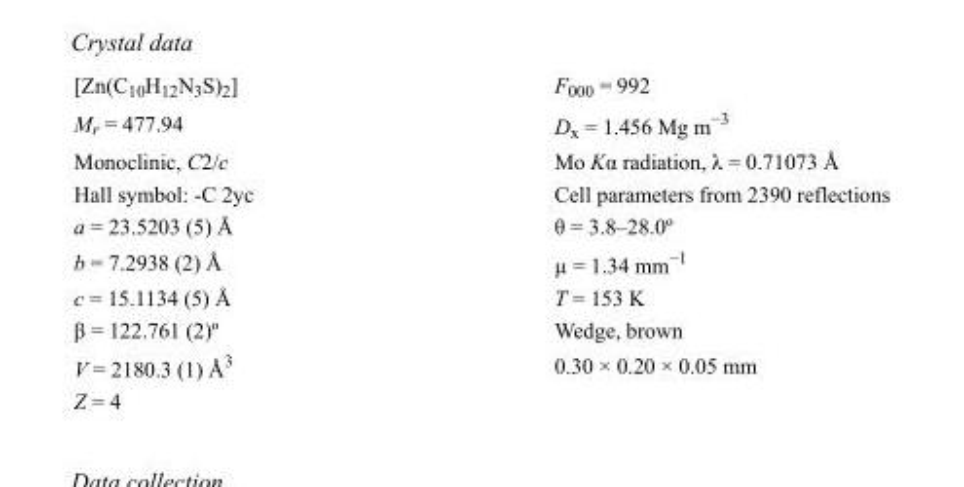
<table><tbody><tr><td>[Zn(C<sub>10</sub>H<sub>12</sub>N<sub>3</sub>S)<sub>2</sub>]</td><td>F000 = 992</td></tr><tr><td>M<sub>r</sub> = 477.94</td><td>D<sub>x</sub> = 1.456 Mg m<sup>−3</sup></td></tr><tr><td>Monoclinic, C2/c</td><td>Mo Kα radiation, λ = 0.71073 Å</td></tr><tr><td>Hall symbol: -C 2yc</td><td>Cell parameters from 2390 reflections</td></tr><tr><td>a = 23.5203 (5) Å</td><td>θ = 3.8–28.0º</td></tr><tr><td>b = 7.2938 (2) Å</td><td>µ = 1.34 mm<sup>−1</sup></td></tr><tr><td>c = 15.1134 (5) Å</td><td>T = 153 K</td></tr><tr><td>β = 122.761 (2)º</td><td>Wedge, brown</td></tr><tr><td>V = 2180.3 (1) Å<sup>3</sup></td><td>0.30 × 0.20 × 0.05 mm</td></tr><tr><td>Z = 4</td><td></td></tr></tbody></table>